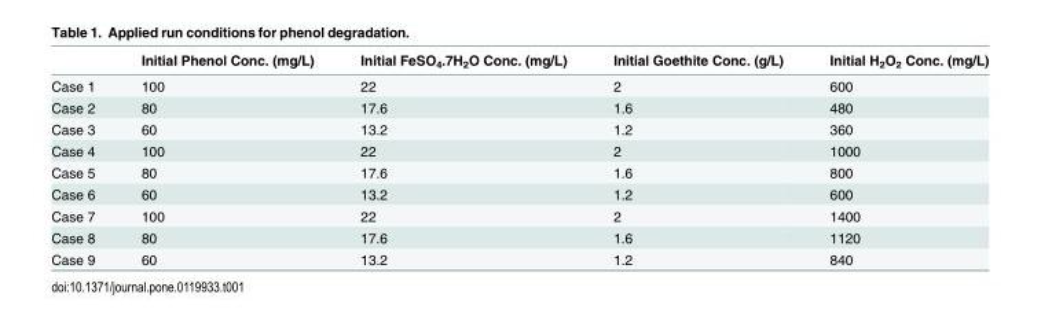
<table><thead><tr><td></td><td>Initial Phenol Conc. (mg/L)</td><td>Initial FeSO<sub>4</sub>.7H<sub>2</sub>O Conc. (mg/L)</td><td>Initial Goethite Conc. (g/L)</td><td>Initial H<sub>2</sub>O<sub>2</sub> Conc. (mg/L)</td></tr></thead><tbody><tr><td>Case 1</td><td>100</td><td>22</td><td>2</td><td>600</td></tr><tr><td>Case 2</td><td>80</td><td>17.6</td><td>1.6</td><td>480</td></tr><tr><td>Case 3</td><td>60</td><td>13.2</td><td>1.2</td><td>360</td></tr><tr><td>Case 4</td><td>100</td><td>22</td><td>2</td><td>1000</td></tr><tr><td>Case 5</td><td>80</td><td>17.6</td><td>1.6</td><td>800</td></tr><tr><td>Case 6</td><td>60</td><td>13.2</td><td>1.2</td><td>600</td></tr><tr><td>Case 7</td><td>100</td><td>22</td><td>2</td><td>1400</td></tr><tr><td>Case 8</td><td>80</td><td>17.6</td><td>1.6</td><td>1120</td></tr><tr><td>Case 9</td><td>60</td><td>13.2</td><td>1.2</td><td>840</td></tr></tbody></table>